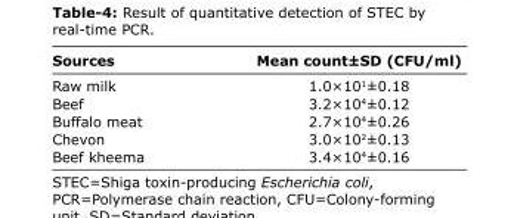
<table><thead><tr><td>Sources</td><td>Mean count±SD (CFU/ml)</td></tr></thead><tbody><tr><td>Raw milk</td><td>1.0×10<sup>1</sup>±0.18</td></tr><tr><td>Beef</td><td>3.2×10<sup>4</sup>±0.12</td></tr><tr><td>Buffalo meat</td><td>2.7×10<sup>4</sup>±0.26</td></tr><tr><td>Chevon</td><td>3.0×10<sup>2</sup>±0.13</td></tr><tr><td>Beef kheema</td><td>3.4×10<sup>4</sup>±0.16</td></tr></tbody></table>